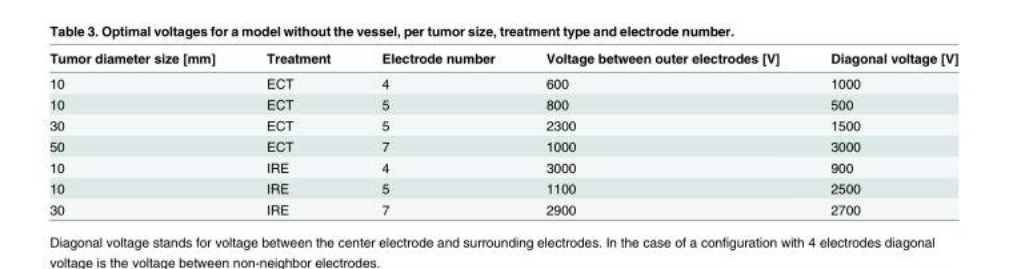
<table><thead><tr><td>Tumor diameter size [mm]</td><td>Treatment</td><td>Electrode number</td><td>Voltage between outer electrodes [V]</td><td>Diagonal voltage [V]</td></tr></thead><tbody><tr><td>10</td><td>ECT</td><td>4</td><td>600</td><td>1000</td></tr><tr><td>10</td><td>ECT</td><td>5</td><td>800</td><td>500</td></tr><tr><td>30</td><td>ECT</td><td>5</td><td>2300</td><td>1500</td></tr><tr><td>50</td><td>ECT</td><td>7</td><td>1000</td><td>3000</td></tr><tr><td>10</td><td>IRE</td><td>4</td><td>3000</td><td>900</td></tr><tr><td>10</td><td>IRE</td><td>5</td><td>1100</td><td>2500</td></tr><tr><td>30</td><td>IRE</td><td>7</td><td>2900</td><td>2700</td></tr></tbody></table>